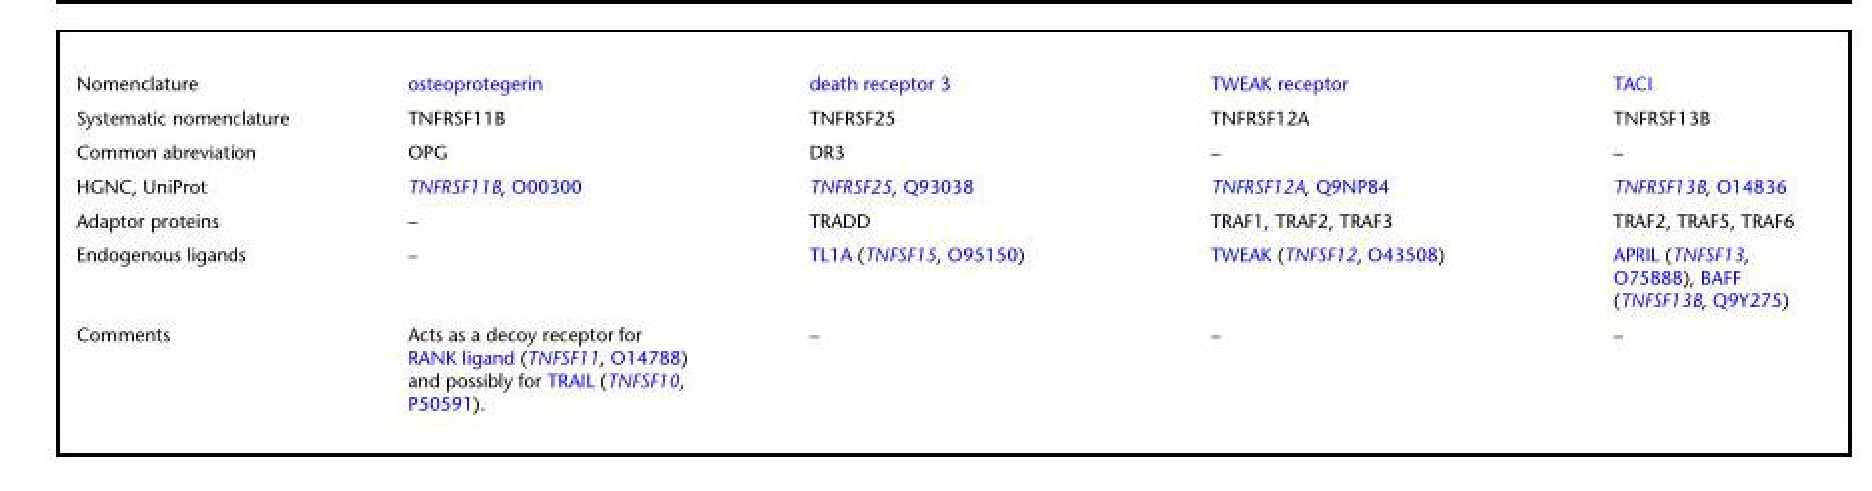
<table><tbody><tr><td>Nomenclature</td><td>osteoprotegerin</td><td>death receptor 3</td><td>TWEAK receptor</td><td>TACI</td></tr><tr><td>Systematic nomenclature</td><td>TNFRSF11B</td><td>TNFRSF25</td><td>TNFRSF12A</td><td>TNFRSF13B</td></tr><tr><td>Common abreviation</td><td>OPG</td><td>DR3</td><td>–</td><td>–</td></tr><tr><td>HGNC, UniProt</td><td>TNFRSF11B, O00300</td><td>TNFRSF25, Q93038</td><td>TNFRSF12A, Q9NP84</td><td>TNFRSF13B, O14836</td></tr><tr><td>Adaptor proteins</td><td>–</td><td>TRADD</td><td>TRAF1, TRAF2, TRAF3</td><td>TRAF2, TRAF5, TRAF6</td></tr><tr><td>Endogenous ligands</td><td>–</td><td>TL1A (TNFSF15, O95150)</td><td>TWEAK (TNFSF12, O43508)</td><td>APRIL (TNFSF13, O75888), BAFF (TNFSF13B, Q9Y275)</td></tr><tr><td>Comments</td><td>Acts as a decoy receptor for RANK ligand (TNFSF11, O14788) and possibly for TRAIL (TNFSF10, P50591).</td><td>–</td><td>–</td><td>–</td></tr></tbody></table>